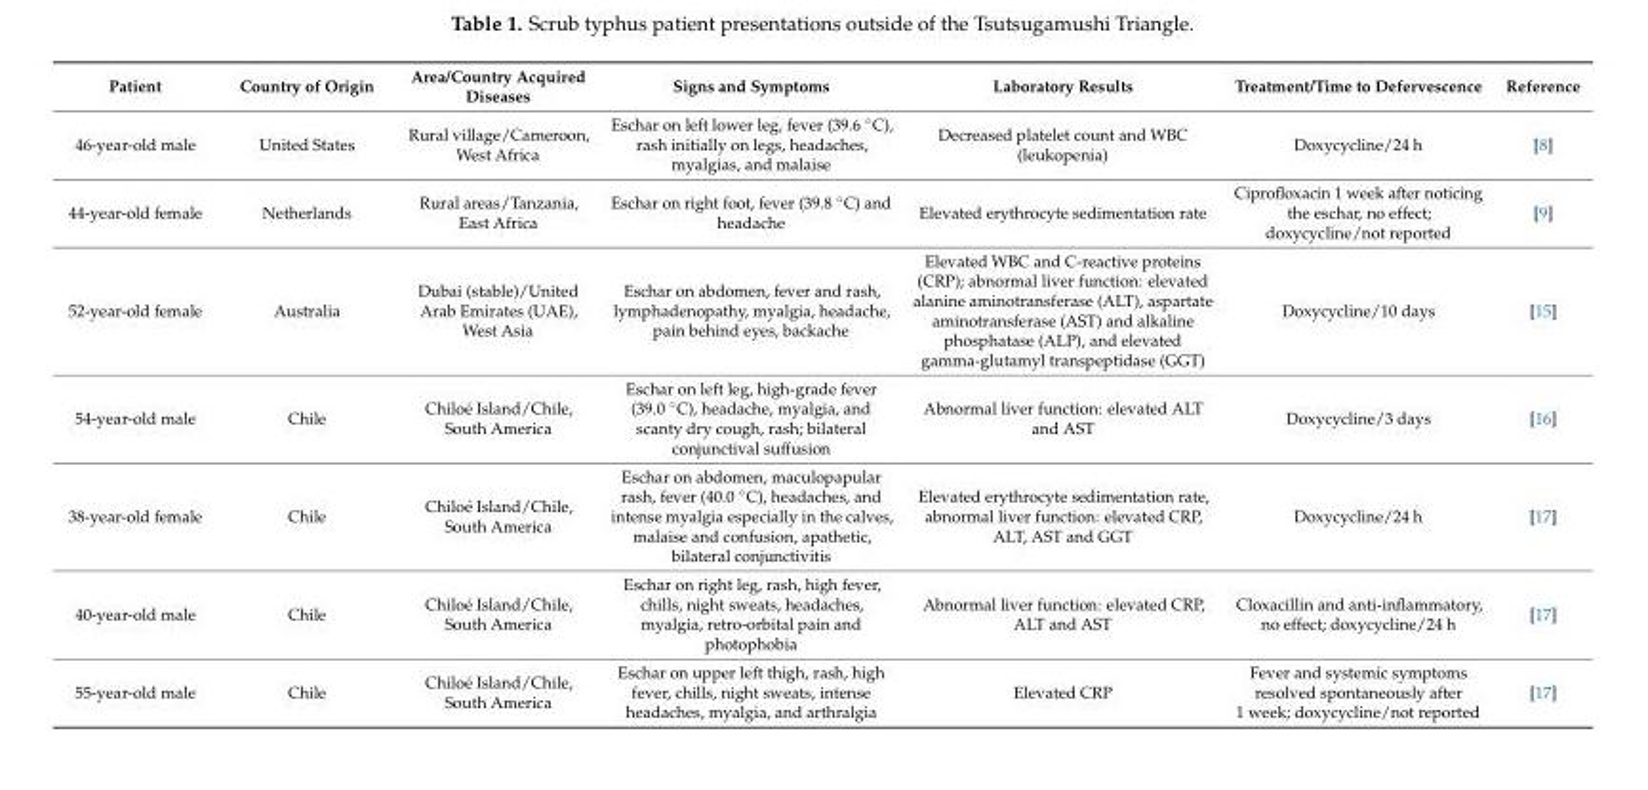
<table><thead><tr><td>Patient</td><td>Country of Origin</td><td>Area/Country Acquired Diseases</td><td>Signs and Symptoms</td><td>Laboratory Results</td><td>Treatment/Time to Defervescence</td><td>Reference</td></tr></thead><tbody><tr><td>46-year-old male</td><td>United States</td><td>Rural village/Cameroon, West Africa</td><td>Eschar on left lower leg, fever (39.6 ◦C), rash initially on legs, headaches, myalgias, and malaise</td><td>Decreased platelet count and WBC (leukopenia)</td><td>Doxycycline/24 h</td><td>[8]</td></tr><tr><td>44-year-old female</td><td>Netherlands</td><td>Rural areas/Tanzania, East Africa</td><td>Eschar on right foot, fever (39.8 ◦C) and headache</td><td>Elevated erythrocyte sedimentation rate</td><td>Ciprofloxacin 1 week after noticing the eschar, no effect; doxycycline/not reported</td><td>[9]</td></tr><tr><td>52-year-old female</td><td>Australia</td><td>Dubai (stable)/United Arab Emirates (UAE), West Asia</td><td>Eschar on abdomen, fever and rash, lymphadenopathy, myalgia, headache, pain behind eyes, backache</td><td>Elevated WBC and C-reactive proteins (CRP); abnormal liver function: elevated alanine aminotransferase (ALT), aspartate aminotransferase (AST) and alkaline phosphatase (ALP), and elevated gamma-glutamyl transpeptidase (GGT)</td><td>Doxycycline/10 days</td><td>[15]</td></tr><tr><td>54-year-old male</td><td>Chile</td><td>Chiloé Island/Chile, South America</td><td>Eschar on left leg, high-grade fever (39.0 ◦C), headache, myalgia, and scanty dry cough, rash; bilateral conjunctival suffusion</td><td>Abnormal liver function: elevated ALT and AST</td><td>Doxycycline/3 days</td><td>[16]</td></tr><tr><td>38-year-old female</td><td>Chile</td><td>Chiloé Island/Chile, South America</td><td>Eschar on abdomen, maculopapular rash, fever (40.0 ◦C), headaches, and intense myalgia especially in the calves, malaise and confusion, apathetic, bilateral conjunctivitis</td><td>Elevated erythrocyte sedimentation rate, abnormal liver function: elevated CRP, ALT, AST and GGT</td><td>Doxycycline/24 h</td><td>[17]</td></tr><tr><td>40-year-old male</td><td>Chile</td><td>Chiloé Island/Chile, South America</td><td>Eschar on right leg, rash, high fever, chills, night sweats, headaches, myalgia, retro-orbital pain and photophobia</td><td>Abnormal liver function: elevated CRP, ALT and AST</td><td>Cloxacillin and anti-inflammatory, no effect; doxycycline/24 h</td><td>[17]</td></tr><tr><td>55-year-old male</td><td>Chile</td><td>Chiloé Island/Chile, South America</td><td>Eschar on upper left thigh, rash, high fever, chills, night sweats, intense headaches, myalgia, and arthralgia</td><td>Elevated CRP</td><td>Fever and systemic symptoms resolved spontaneously after 1 week; doxycycline/not reported</td><td>[17]</td></tr></tbody></table>